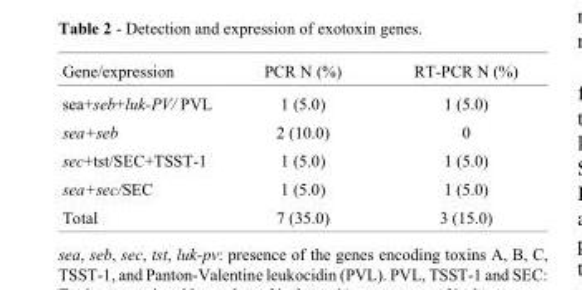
<table><thead><tr><td>Gene/expression</td><td>PCR N (%)</td><td>RT-PCR N (%)</td></tr></thead><tbody><tr><td>sea+seb+luk-PV/ PVL</td><td>1 (5.0)</td><td>1 (5.0)</td></tr><tr><td>sea+seb</td><td>2 (10.0)</td><td>0</td></tr><tr><td>sec+tst/SEC+TSST-1</td><td>1 (5.0)</td><td>1 (5.0)</td></tr><tr><td>sea+sec/SEC</td><td>1 (5.0)</td><td>1 (5.0)</td></tr><tr><td>Total</td><td>7 (35.0)</td><td>3 (15.0)</td></tr></tbody></table>